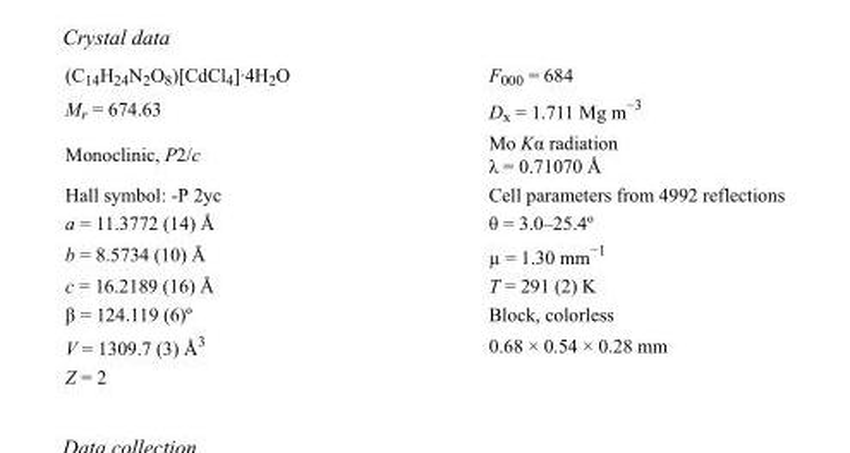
<table><tbody><tr><td>(C<sub>14</sub>H<sub>24</sub>N<sub>2</sub>O<sub>8</sub>)[CdCl<sub>4</sub>]·4H<sub>2</sub>O</td><td>F000 = 684</td></tr><tr><td>M<sub>r</sub> = 674.63</td><td>D<sub>x</sub> = 1.711 Mg m<sup>−3</sup></td></tr><tr><td>Monoclinic, P2/c</td><td>Mo Kα radiation λ = 0.71070 Å</td></tr><tr><td>Hall symbol: -P 2yc</td><td>Cell parameters from 4992 reflections</td></tr><tr><td>a = 11.3772 (14) Å</td><td>θ = 3.0–25.4º</td></tr><tr><td>b = 8.5734 (10) Å</td><td>µ = 1.30 mm<sup>−1</sup></td></tr><tr><td>c = 16.2189 (16) Å</td><td>T = 291 (2) K</td></tr><tr><td>β = 124.119 (6)º</td><td>Block, colorless</td></tr><tr><td>V = 1309.7 (3) Å<sup>3</sup></td><td>0.68 × 0.54 × 0.28 mm</td></tr><tr><td>Z = 2</td><td></td></tr></tbody></table>